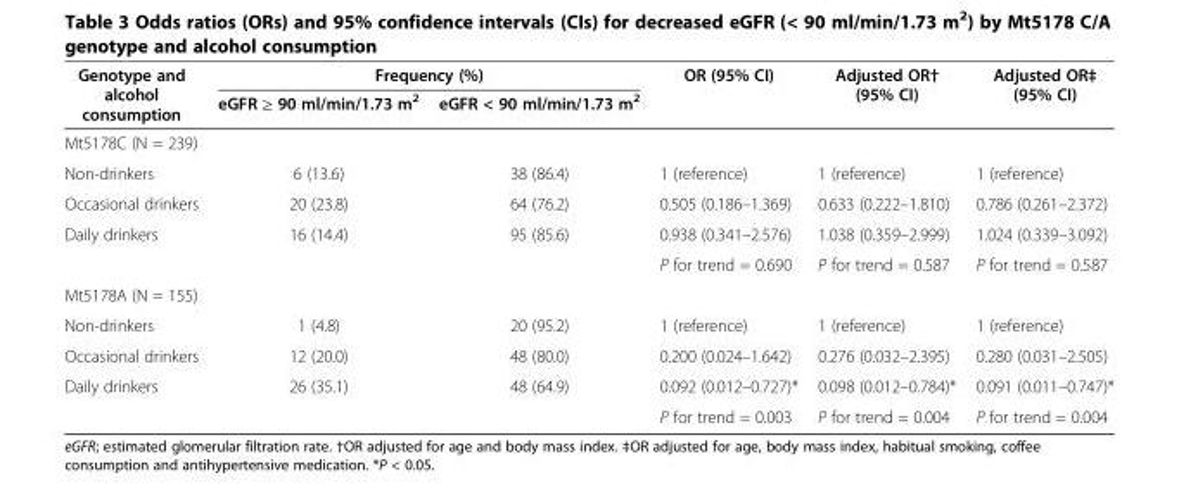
<table><thead><tr><td rowspan="2">Genotype and alcohol consumption</td><td colspan="2">Frequency (%)</td><td rowspan="2">OR (95% CI)</td><td rowspan="2">Adjusted OR† (95% CI)</td><td rowspan="2">Adjusted OR‡ (95% CI)</td></tr><tr><td>eGFR ≥ 90 ml/min/1.73 m<sup>2</sup></td><td>eGFR &lt; 90 ml/min/1.73 m<sup>2</sup></td></tr></thead><tbody><tr><td colspan="6">Mt5178C (N = 239)</td></tr><tr><td>Non-drinkers</td><td>6 (13.6)</td><td>38 (86.4)</td><td>1 (reference)</td><td>1 (reference)</td><td>1 (reference)</td></tr><tr><td>Occasional drinkers</td><td>20 (23.8)</td><td>64 (76.2)</td><td>0.505 (0.186–1.369)</td><td>0.633 (0.222–1.810)</td><td>0.786 (0.261–2.372)</td></tr><tr><td rowspan="2">Daily drinkers</td><td>16 (14.4)</td><td>95 (85.6)</td><td>0.938 (0.341–2.576)</td><td>1.038 (0.359–2.999)</td><td>1.024 (0.339–3.092)</td></tr><tr><td></td><td></td><td>P for trend = 0.690</td><td>P for trend = 0.587</td><td>P for trend = 0.587</td></tr><tr><td colspan="6">Mt5178A (N = 155)</td></tr><tr><td>Non-drinkers</td><td>1 (4.8)</td><td>20 (95.2)</td><td>1 (reference)</td><td>1 (reference)</td><td>1 (reference)</td></tr><tr><td>Occasional drinkers</td><td>12 (20.0)</td><td>48 (80.0)</td><td>0.200 (0.024–1.642)</td><td>0.276 (0.032–2.395)</td><td>0.280 (0.031–2.505)</td></tr><tr><td rowspan="2">Daily drinkers</td><td>26 (35.1)</td><td>48 (64.9)</td><td>0.092 (0.012–0.727)*</td><td>0.098 (0.012–0.784)*</td><td>0.091 (0.011–0.747)*</td></tr><tr><td></td><td></td><td>P for trend = 0.003</td><td>P for trend = 0.004</td><td>P for trend = 0.004</td></tr></tbody></table>